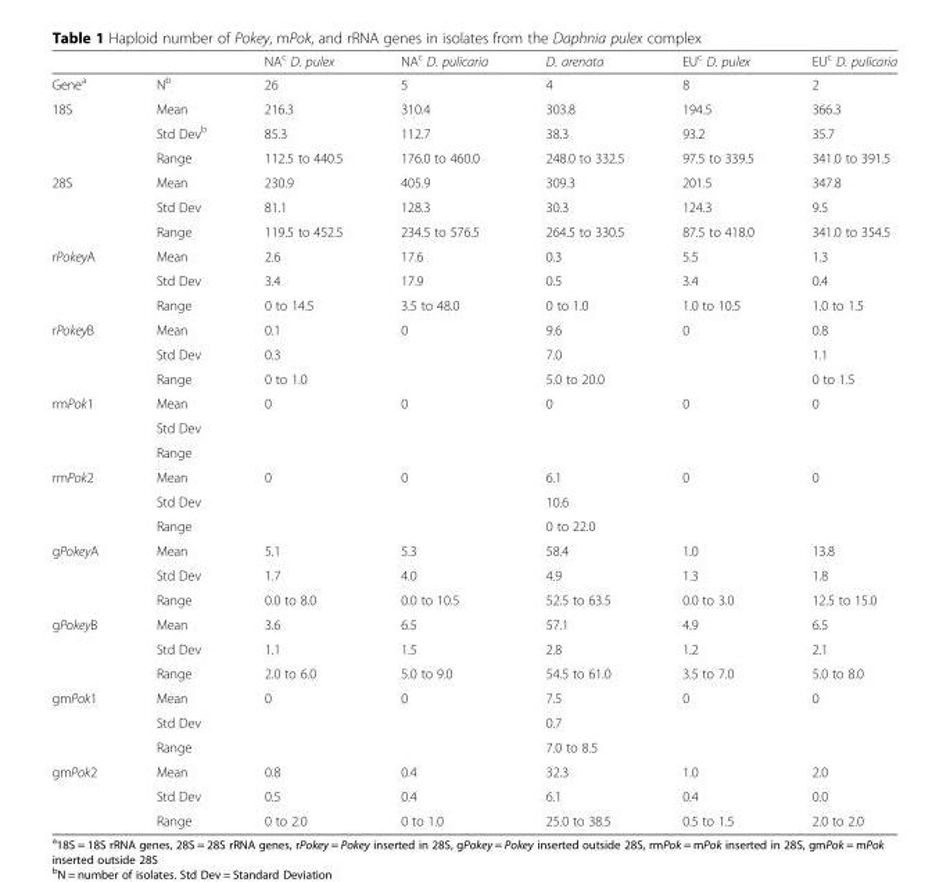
<table><thead><tr><td></td><td></td><td>NA<sup>c</sup> D. pulex</td><td>NA<sup>c</sup> D. pulicaria</td><td>D. arenata</td><td>EU<sup>c</sup> D. pulex</td><td>EU<sup>c</sup> D. pulicaria</td></tr></thead><tbody><tr><td>Gene<sup>a</sup></td><td>N<sup>b</sup></td><td>26</td><td>5</td><td>4</td><td>8</td><td>2</td></tr><tr><td rowspan="3">18S</td><td>Mean</td><td>216.3</td><td>310.4</td><td>303.8</td><td>194.5</td><td>366.3</td></tr><tr><td>Std Dev<sup>b</sup></td><td>85.3</td><td>112.7</td><td>38.3</td><td>93.2</td><td>35.7</td></tr><tr><td>Range</td><td>112.5 to 440.5</td><td>176.0 to 460.0</td><td>248.0 to 332.5</td><td>97.5 to 339.5</td><td>341.0 to 391.5</td></tr><tr><td rowspan="3">28S</td><td>Mean</td><td>230.9</td><td>405.9</td><td>309.3</td><td>201.5</td><td>347.8</td></tr><tr><td>Std Dev</td><td>81.1</td><td>128.3</td><td>30.3</td><td>124.3</td><td>9.5</td></tr><tr><td>Range</td><td>119.5 to 452.5</td><td>234.5 to 576.5</td><td>264.5 to 330.5</td><td>87.5 to 418.0</td><td>341.0 to 354.5</td></tr><tr><td rowspan="3">rPokeyA</td><td>Mean</td><td>2.6</td><td>17.6</td><td>0.3</td><td>5.5</td><td>1.3</td></tr><tr><td>Std Dev</td><td>3.4</td><td>17.9</td><td>0.5</td><td>3.4</td><td>0.4</td></tr><tr><td>Range</td><td>0 to 14.5</td><td>3.5 to 48.0</td><td>0 to 1.0</td><td>1.0 to 10.5</td><td>1.0 to 1.5</td></tr><tr><td rowspan="3">rPokeyB</td><td>Mean</td><td>0.1</td><td>0</td><td>9.6</td><td>0</td><td>0.8</td></tr><tr><td>Std Dev</td><td>0.3</td><td></td><td>7.0</td><td></td><td>1.1</td></tr><tr><td>Range</td><td>0 to 1.0</td><td></td><td>5.0 to 20.0</td><td></td><td>0 to 1.5</td></tr><tr><td rowspan="3">rmPok1</td><td>Mean</td><td>0</td><td>0</td><td>0</td><td>0</td><td>0</td></tr><tr><td>Std Dev</td><td></td><td></td><td></td><td></td><td></td></tr><tr><td>Range</td><td></td><td></td><td></td><td></td><td></td></tr><tr><td rowspan="3">rmPok2</td><td>Mean</td><td>0</td><td>0</td><td>6.1</td><td>0</td><td>0</td></tr><tr><td>Std Dev</td><td></td><td></td><td>10.6</td><td></td><td></td></tr><tr><td>Range</td><td></td><td></td><td>0 to 22.0</td><td></td><td></td></tr><tr><td rowspan="3">gPokeyA</td><td>Mean</td><td>5.1</td><td>5.3</td><td>58.4</td><td>1.0</td><td>13.8</td></tr><tr><td>Std Dev</td><td>1.7</td><td>4.0</td><td>4.9</td><td>1.3</td><td>1.8</td></tr><tr><td>Range</td><td>0.0 to 8.0</td><td>0.0 to 10.5</td><td>52.5 to 63.5</td><td>0.0 to 3.0</td><td>12.5 to 15.0</td></tr><tr><td rowspan="3">gPokeyB</td><td>Mean</td><td>3.6</td><td>6.5</td><td>57.1</td><td>4.9</td><td>6.5</td></tr><tr><td>Std Dev</td><td>1.1</td><td>1.5</td><td>2.8</td><td>1.2</td><td>2.1</td></tr><tr><td>Range</td><td>2.0 to 6.0</td><td>5.0 to 9.0</td><td>54.5 to 61.0</td><td>3.5 to 7.0</td><td>5.0 to 8.0</td></tr><tr><td rowspan="3">gmPok1</td><td>Mean</td><td>0</td><td>0</td><td>7.5</td><td>0</td><td>0</td></tr><tr><td>Std Dev</td><td></td><td></td><td>0.7</td><td></td><td></td></tr><tr><td>Range</td><td></td><td></td><td>7.0 to 8.5</td><td></td><td></td></tr><tr><td rowspan="3">gmPok2</td><td>Mean</td><td>0.8</td><td>0.4</td><td>32.3</td><td>1.0</td><td>2.0</td></tr><tr><td>Std Dev</td><td>0.5</td><td>0.4</td><td>6.1</td><td>0.4</td><td>0.0</td></tr><tr><td>Range</td><td>0 to 2.0</td><td>0 to 1.0</td><td>25.0 to 38.5</td><td>0.5 to 1.5</td><td>2.0 to 2.0</td></tr></tbody></table>